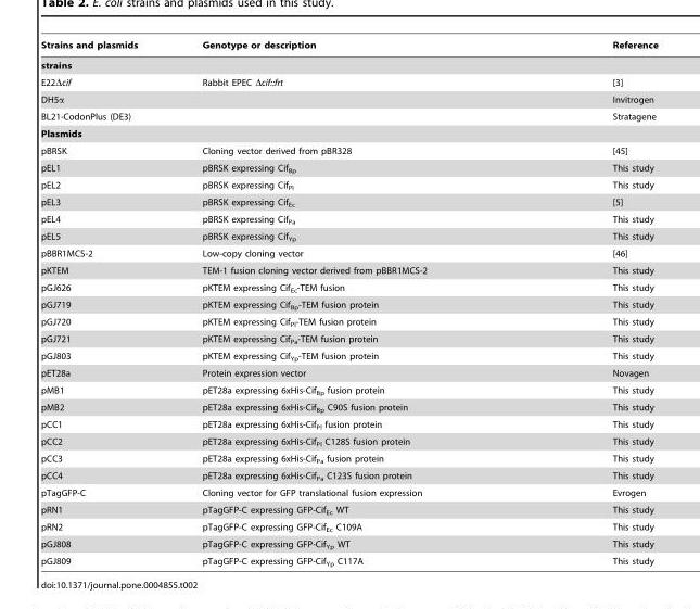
<table><thead><tr><td>Strains and plasmids</td><td>Genotype or description</td><td>Reference</td></tr></thead><tbody><tr><td colspan="3">strains</td></tr><tr><td>E22Δcif</td><td>Rabbit EPEC Δcif::frt</td><td>[3]</td></tr><tr><td>DH5α</td><td></td><td>Invitrogen</td></tr><tr><td>BL21-CodonPlus (DE3)</td><td></td><td>Stratagene</td></tr><tr><td colspan="3">Plasmids</td></tr><tr><td>pBRSK</td><td>Cloning vector derived from pBR328</td><td>[45]</td></tr><tr><td>pEL1</td><td>pBRSK expressing Cif<sub>Bp</sub></td><td>This study</td></tr><tr><td>pEL2</td><td>pBRSK expressing Cif<sub>Pl</sub></td><td>This study</td></tr><tr><td>pEL3</td><td>pBRSK expressing Cif<sub>Ec</sub></td><td>[5]</td></tr><tr><td>pEL4</td><td>pBRSK expressing Cif<sub>Pa</sub></td><td>This study</td></tr><tr><td>pEL5</td><td>pBRSK expressing Cif<sub>Yp</sub></td><td>This study</td></tr><tr><td>pBBR1MCS-2</td><td>Low-copy cloning vector</td><td>[46]</td></tr><tr><td>pKTEM</td><td>TEM-1 fusion cloning vector derived from pBBR1MCS-2</td><td>This study</td></tr><tr><td>pGJ626</td><td>pKTEM expressing Cif<sub>Ec</sub>-TEM fusion</td><td>This study</td></tr><tr><td>pGJ719</td><td>pKTEM expressing Cif<sub>Bp</sub>-TEM fusion protein</td><td>This study</td></tr><tr><td>pGJ720</td><td>pKTEM expressing Cif<sub>Pl</sub>-TEM fusion protein</td><td>This study</td></tr><tr><td>pGJ721</td><td>pKTEM expressing Cif<sub>Pa</sub>-TEM fusion protein</td><td>This study</td></tr><tr><td>pGJ803</td><td>pKTEM expressing Cif<sub>Yp</sub>-TEM fusion protein</td><td>This study</td></tr><tr><td>pET28a</td><td>Protein expression vector</td><td>Novagen</td></tr><tr><td>pMB1</td><td>pET28a expressing 6xHis-Cif<sub>Bp</sub> fusion protein</td><td>This study</td></tr><tr><td>pMB2</td><td>pET28a expressing 6xHis-Cif<sub>Bp</sub> C90S fusion protein</td><td>This study</td></tr><tr><td>pCC1</td><td>pET28a expressing 6xHis-Cif<sub>Pl</sub> fusion protein</td><td>This study</td></tr><tr><td>pCC2</td><td>pET28a expressing 6xHis-Cif<sub>Pl</sub> C128S fusion protein</td><td>This study</td></tr><tr><td>pCC3</td><td>pET28a expressing 6xHis-Cif<sub>Pa</sub> fusion protein</td><td>This study</td></tr><tr><td>pCC4</td><td>pET28a expressing 6xHis-Cif<sub>Pa</sub> C123S fusion protein</td><td>This study</td></tr><tr><td>pTagGFP-C</td><td>Cloning vector for GFP translational fusion expression</td><td>Evrogen</td></tr><tr><td>pRN1</td><td>pTagGFP-C expressing GFP-Cif<sub>Ec</sub> WT</td><td>This study</td></tr><tr><td>pRN2</td><td>pTagGFP-C expressing GFP-Cif<sub>Ec</sub> C109A</td><td>This study</td></tr><tr><td>pGJ808</td><td>pTagGFP-C expressing GFP-Cif<sub>Yp</sub> WT</td><td>This study</td></tr><tr><td>pGJ809</td><td>pTagGFP-C expressing GFP-Cif<sub>Yp</sub> C117A</td><td>This study</td></tr></tbody></table>